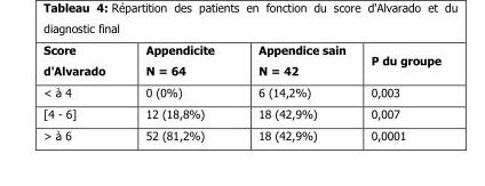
<table><thead><tr><td>Score d&#x27;Alvarado</td><td>Appendicite N = 64</td><td>Appendice sain N = 42</td><td>P du groupe</td></tr></thead><tbody><tr><td>&lt; à 4</td><td>0 (0%)</td><td>6 (14,2%)</td><td>0,003</td></tr><tr><td>[4 - 6]</td><td>12 (18,8%)</td><td>18 (42,9%)</td><td>0,007</td></tr><tr><td>&gt; à 6</td><td>52 (81,2%)</td><td>18 (42,9%)</td><td>0,0001</td></tr></tbody></table>